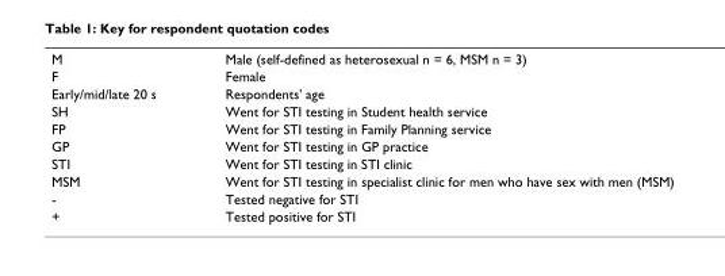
<table><tbody><tr><td>M</td><td>Male (self-defined as heterosexual n = 6, MSM n = 3)</td></tr><tr><td>F</td><td>Female</td></tr><tr><td>Early/mid/late 20 s</td><td>Respondents&#x27; age</td></tr><tr><td>SH</td><td>Went for STI testing in Student health service</td></tr><tr><td>FP</td><td>Went for STI testing in Family Planning service</td></tr><tr><td>GP</td><td>Went for STI testing in GP practice</td></tr><tr><td>STI</td><td>Went for STI testing in STI clinic</td></tr><tr><td>MSM</td><td>Went for STI testing in specialist clinic for men who have sex with men (MSM)</td></tr><tr><td>-</td><td>Tested negative for STI</td></tr><tr><td>+</td><td>Tested positive for STI</td></tr></tbody></table>